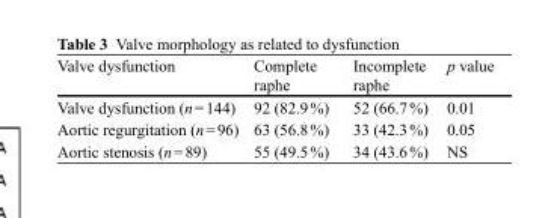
<table><thead><tr><td>Valve dysfunction</td><td>Complete raphe</td><td>Incomplete raphe</td><td>p value</td></tr></thead><tbody><tr><td>Valve dysfunction (n = 144)</td><td>92 (82.9 %)</td><td>52 (66.7 %)</td><td>0.01</td></tr><tr><td>Aortic regurgitation (n = 96)</td><td>63 (56.8 %)</td><td>33 (42.3 %)</td><td>0.05</td></tr><tr><td>Aortic stenosis (n = 89)</td><td>55 (49.5 %)</td><td>34 (43.6 %)</td><td>NS</td></tr></tbody></table>